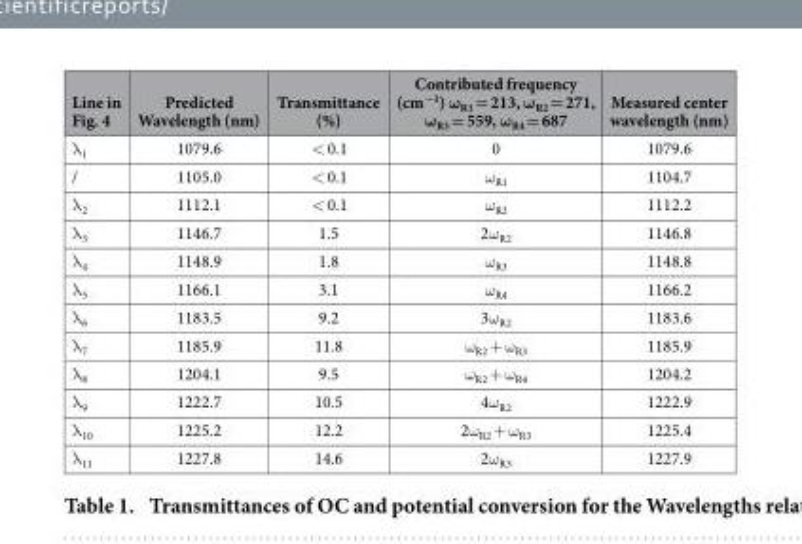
<table><thead><tr><td>Line in Fig. 4</td><td>Predicted Wavelength (nm)</td><td>Transmittance (%)</td><td>Contributed frequency (cm<sup>−1</sup>) ω<sub>R1</sub> = 213, ω<sub>R2</sub> = 271, ω<sub>R3</sub> = 559, ω<sub>R4</sub> = 687</td><td>Measured center wavelength (nm)</td></tr></thead><tbody><tr><td>λ <sub>1</sub></td><td>1079.6</td><td>&lt; 0.1</td><td>0</td><td>1079.6</td></tr><tr><td>/</td><td>1105.0</td><td>&lt; 0.1</td><td>ω <sub>R1</sub></td><td>1104.7</td></tr><tr><td>λ <sub>2</sub></td><td>1112.1</td><td>&lt; 0.1</td><td>ω <sub>R2</sub></td><td>1112.2</td></tr><tr><td>λ <sub>3</sub></td><td>1146.7</td><td>1.5</td><td>2ω <sub>R2</sub></td><td>1146.8</td></tr><tr><td>λ <sub>4</sub></td><td>1148.9</td><td>1.8</td><td>ω <sub>R3</sub></td><td>1148.8</td></tr><tr><td>λ <sub>5</sub></td><td>1166.1</td><td>3.1</td><td>ω <sub>R4</sub></td><td>1166.2</td></tr><tr><td>λ <sub>6</sub></td><td>1183.5</td><td>9.2</td><td>3ω <sub>R2</sub></td><td>1183.6</td></tr><tr><td>λ <sub>7</sub></td><td>1185.9</td><td>11.8</td><td>ω <sub>R2</sub> + ω <sub>R3</sub></td><td>1185.9</td></tr><tr><td>λ <sub>8</sub></td><td>1204.1</td><td>9.5</td><td>ω <sub>R2</sub> + ω <sub>R4</sub></td><td>1204.2</td></tr><tr><td>λ <sub>9</sub></td><td>1222.7</td><td>10.5</td><td>4ω <sub>R2</sub></td><td>1222.9</td></tr><tr><td>λ <sub>10</sub></td><td>1225.2</td><td>12.2</td><td>2ω <sub>R2</sub> + ω <sub>R3</sub></td><td>1225.4</td></tr><tr><td>λ <sub>11</sub></td><td>1227.8</td><td>14.6</td><td>2ω <sub>R3</sub></td><td>1227.9</td></tr></tbody></table>